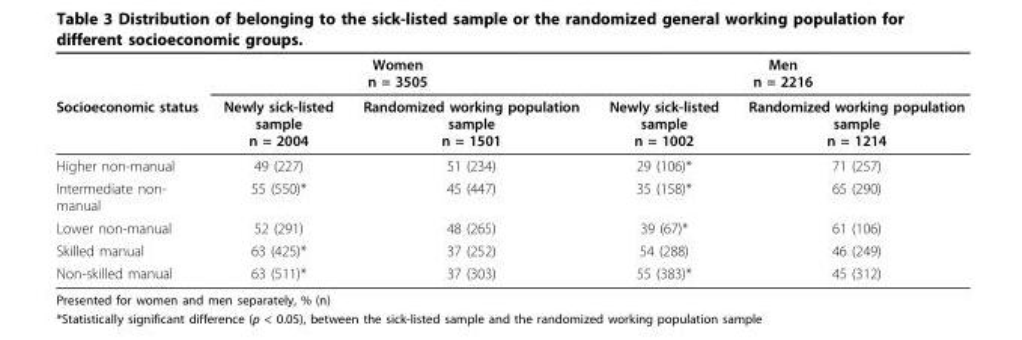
<table><thead><tr><td rowspan="2">Socioeconomic status</td><td colspan="2">Women n = 3505</td><td colspan="2">Men n = 2216</td></tr><tr><td>Newly sick-listed sample n = 2004</td><td>Randomized working population sample n = 1501</td><td>Newly sick-listed sample n = 1002</td><td>Randomized working population sample n = 1214</td></tr></thead><tbody><tr><td>Higher non-manual</td><td>49 (227)</td><td>51 (234)</td><td>29 (106)*</td><td>71 (257)</td></tr><tr><td>Intermediate non- manual</td><td>55 (550)*</td><td>45 (447)</td><td>35 (158)*</td><td>65 (290)</td></tr><tr><td>Lower non-manual</td><td>52 (291)</td><td>48 (265)</td><td>39 (67)*</td><td>61 (106)</td></tr><tr><td>Skilled manual</td><td>63 (425)*</td><td>37 (252)</td><td>54 (288)</td><td>46 (249)</td></tr><tr><td>Non-skilled manual</td><td>63 (511)*</td><td>37 (303)</td><td>55 (383)*</td><td>45 (312)</td></tr></tbody></table>